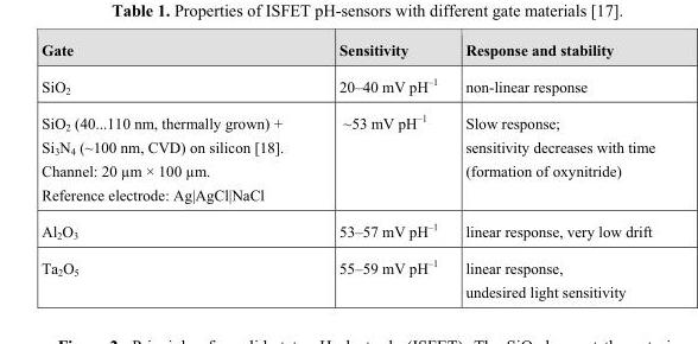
<table><thead><tr><td>Gate</td><td>Sensitivity</td><td>Response and stability</td></tr></thead><tbody><tr><td>SiO<sub>2</sub></td><td>20–40 mV pH<sup>–1</sup></td><td>non-linear response</td></tr><tr><td>SiO2 (40...110 nm, thermally grown) + Si3N4 (~100 nm, CVD) on silicon [18]. Channel: 20 µm × 100 µm. Reference electrode: Ag|AgCl|NaCl</td><td>~53 mV pH–1</td><td>Slow response; sensitivity decreases with time (formation of oxynitride)</td></tr><tr><td>Al<sub>2</sub>O<sub>3</sub></td><td>53–57 mV pH<sup>–1</sup></td><td>linear response, very low drift</td></tr><tr><td>Ta<sub>2</sub>O<sub>5</sub></td><td>55–59 mV pH<sup>–1</sup></td><td>linear response, undesired light sensitivity</td></tr></tbody></table>